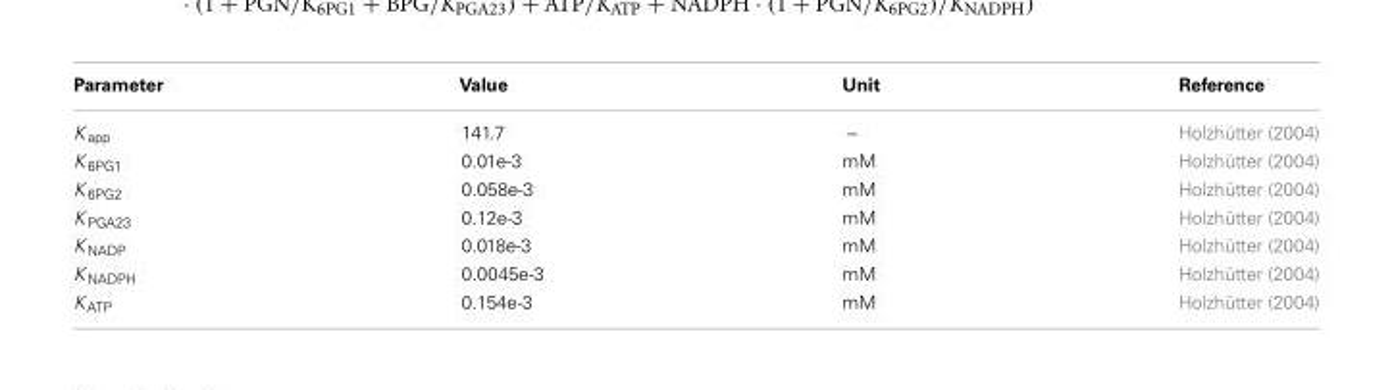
<table><thead><tr><td>Parameter</td><td>Value</td><td>Unit</td><td>Reference</td></tr></thead><tbody><tr><td>K <sub>app</sub></td><td>141.7</td><td>–</td><td>Holzhütter (2004)</td></tr><tr><td>K <sub>6PG1</sub></td><td>0.01e-3</td><td>mM</td><td>Holzhütter (2004)</td></tr><tr><td>K <sub>6PG2</sub></td><td>0.058e-3</td><td>mM</td><td>Holzhütter (2004)</td></tr><tr><td>K <sub>PGA23</sub></td><td>0.12e-3</td><td>mM</td><td>Holzhütter (2004)</td></tr><tr><td>K <sub>NADP</sub></td><td>0.018e-3</td><td>mM</td><td>Holzhütter (2004)</td></tr><tr><td>K <sub>NADPH</sub></td><td>0.0045e-3</td><td>mM</td><td>Holzhütter (2004)</td></tr><tr><td>K <sub>ATP</sub></td><td>0.154e-3</td><td>mM</td><td>Holzhütter (2004)</td></tr></tbody></table>